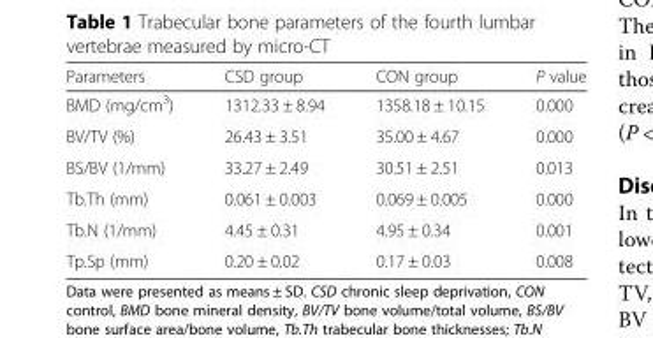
<table><thead><tr><td>Parameters</td><td>CSD group</td><td>CON group</td><td>P value</td></tr></thead><tbody><tr><td>BMD (mg/cm<sup>3</sup>)</td><td>1312.33 ± 8.94</td><td>1358.18 ± 10.15</td><td>0.000</td></tr><tr><td>BV/TV (%)</td><td>26.43 ± 3.51</td><td>35.00 ± 4.67</td><td>0.000</td></tr><tr><td>BS/BV (1/mm)</td><td>33.27 ± 2.49</td><td>30.51 ± 2.51</td><td>0.013</td></tr><tr><td>Tb.Th (mm)</td><td>0.061 ± 0.003</td><td>0.069 ± 0.005</td><td>0.000</td></tr><tr><td>Tb.N (1/mm)</td><td>4.45 ± 0.31</td><td>4.95 ± 0.34</td><td>0.001</td></tr><tr><td>Tp.Sp (mm)</td><td>0.20 ± 0.02</td><td>0.17 ± 0.03</td><td>0.008</td></tr></tbody></table>